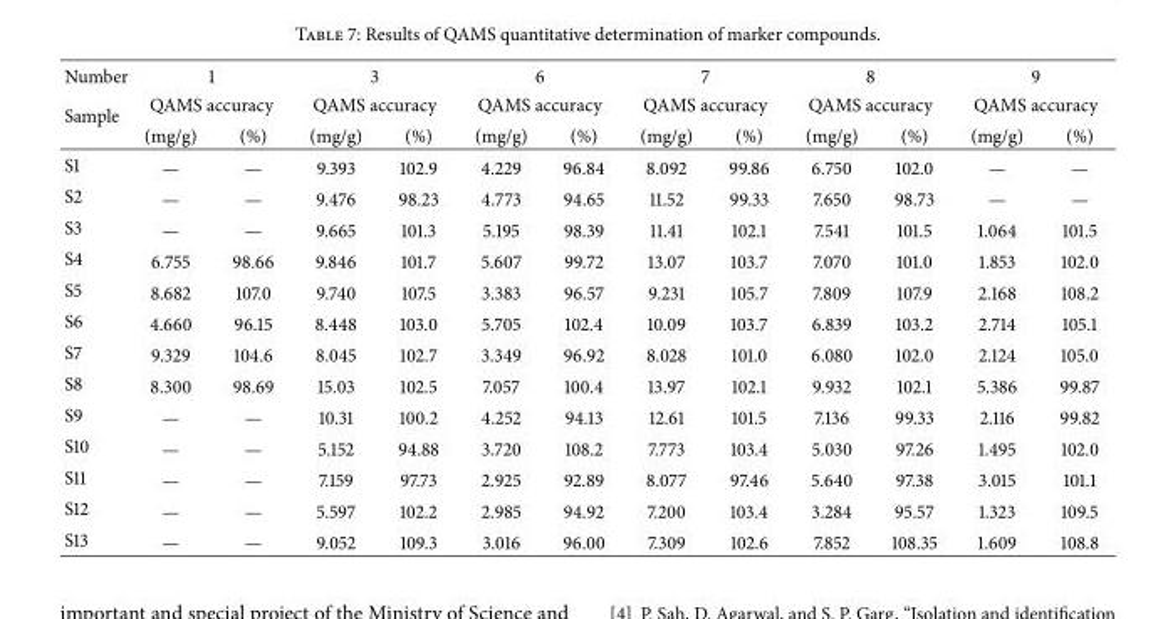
<table><thead><tr><td rowspan="3">Number Sample</td><td rowspan="2" colspan="2">1 QAMS accuracy</td><td rowspan="2" colspan="2">3 QAMS accuracy</td><td rowspan="2" colspan="2">6 QAMS accuracy</td><td rowspan="2" colspan="2">7 QAMS accuracy</td><td rowspan="2" colspan="2">8 QAMS accuracy</td><td rowspan="2" colspan="2">9 QAMS accuracy</td></tr><tr></tr><tr><td>(mg/g)</td><td>(%)</td><td>(mg/g)</td><td>(%)</td><td>(mg/g)</td><td>(%)</td><td>(mg/g)</td><td>(%)</td><td>(mg/g)</td><td>(%)</td><td>(mg/g)</td><td>(%)</td></tr></thead><tbody><tr><td>S1</td><td>—</td><td>—</td><td>9.393</td><td>102.9</td><td>4.229</td><td>96.84</td><td>8.092</td><td>99.86</td><td>6.750</td><td>102.0</td><td>—</td><td>—</td></tr><tr><td>S2</td><td>—</td><td>—</td><td>9.476</td><td>98.23</td><td>4.773</td><td>94.65</td><td>11.52</td><td>99.33</td><td>7.650</td><td>98.73</td><td>—</td><td>—</td></tr><tr><td>S3</td><td>—</td><td>—</td><td>9.665</td><td>101.3</td><td>5.195</td><td>98.39</td><td>11.41</td><td>102.1</td><td>7.541</td><td>101.5</td><td>1.064</td><td>101.5</td></tr><tr><td>S4</td><td>6.755</td><td>98.66</td><td>9.846</td><td>101.7</td><td>5.607</td><td>99.72</td><td>13.07</td><td>103.7</td><td>7.070</td><td>101.0</td><td>1.853</td><td>102.0</td></tr><tr><td>S5</td><td>8.682</td><td>107.0</td><td>9.740</td><td>107.5</td><td>3.383</td><td>96.57</td><td>9.231</td><td>105.7</td><td>7.809</td><td>107.9</td><td>2.168</td><td>108.2</td></tr><tr><td>S6</td><td>4.660</td><td>96.15</td><td>8.448</td><td>103.0</td><td>5.705</td><td>102.4</td><td>10.09</td><td>103.7</td><td>6.839</td><td>103.2</td><td>2.714</td><td>105.1</td></tr><tr><td>S7</td><td>9.329</td><td>104.6</td><td>8.045</td><td>102.7</td><td>3.349</td><td>96.92</td><td>8.028</td><td>101.0</td><td>6.080</td><td>102.0</td><td>2.124</td><td>105.0</td></tr><tr><td>S8</td><td>8.300</td><td>98.69</td><td>15.03</td><td>102.5</td><td>7.057</td><td>100.4</td><td>13.97</td><td>102.1</td><td>9.932</td><td>102.1</td><td>5.386</td><td>99.87</td></tr><tr><td>S9</td><td>—</td><td>—</td><td>10.31</td><td>100.2</td><td>4.252</td><td>94.13</td><td>12.61</td><td>101.5</td><td>7.136</td><td>99.33</td><td>2.116</td><td>99.82</td></tr><tr><td>S10</td><td>—</td><td>—</td><td>5.152</td><td>94.88</td><td>3.720</td><td>108.2</td><td>7.773</td><td>103.4</td><td>5.030</td><td>97.26</td><td>1.495</td><td>102.0</td></tr><tr><td>S11</td><td>—</td><td>—</td><td>7.159</td><td>97.73</td><td>2.925</td><td>92.89</td><td>8.077</td><td>97.46</td><td>5.640</td><td>97.38</td><td>3.015</td><td>101.1</td></tr><tr><td>S12</td><td>—</td><td>—</td><td>5.597</td><td>102.2</td><td>2.985</td><td>94.92</td><td>7.200</td><td>103.4</td><td>3.284</td><td>95.57</td><td>1.323</td><td>109.5</td></tr><tr><td>S13</td><td>—</td><td>—</td><td>9.052</td><td>109.3</td><td>3.016</td><td>96.00</td><td>7.309</td><td>102.6</td><td>7.852</td><td>108.35</td><td>1.609</td><td>108.8</td></tr></tbody></table>